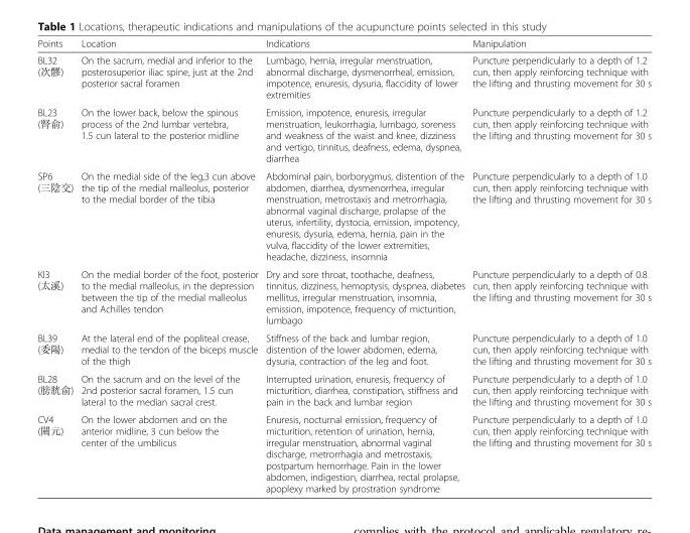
<table><thead><tr><td>Points</td><td>Location</td><td>Indications</td><td>Manipulation</td></tr></thead><tbody><tr><td>BL32 (次髎)</td><td>On the sacrum, medial and inferior to the posterosuperior iliac spine, just at the 2nd posterior sacral foramen</td><td>Lumbago, hernia, irregular menstruation, abnormal discharge, dysmenorrheal, emission, impotence, enuresis, dysuria, flaccidity of lower extremities</td><td>Puncture perpendicularly to a depth of 1.2 cun, then apply reinforcing technique with the lifting and thrusting movement for 30 s</td></tr><tr><td>BL23 (腎俞)</td><td>On the lower back, below the spinous process of the 2nd lumbar vertebra, 1.5 cun lateral to the posterior midline</td><td>Emission, impotence, enuresis, irregular menstruation, leukorrhagia, lumbago, soreness and weakness of the waist and knee, dizziness and vertigo, tinnitus, deafness, edema, dyspnea, diarrhea</td><td>Puncture perpendicularly to a depth of 1.2 cun, then apply reinforcing technique with the lifting and thrusting movement for 30 s</td></tr><tr><td>SP6 (三陰交)</td><td>On the medial side of the leg,3 cun above the tip of the medial malleolus, posterior to the medial border of the tibia</td><td>Abdominal pain, borborygmus, distention of the abdomen, diarrhea, dysmenorrhea, irregular menstruation, metrostaxis and metrorrhagia, abnormal vaginal discharge, prolapse of the uterus, infertility, dystocia, emission, impotency, enuresis, dysuria, edema, hernia, pain in the vulva, flaccidity of the lower extremities, headache, dizziness, insomnia</td><td>Puncture perpendicularly to a depth of 1.0 cun, then apply reinforcing technique with the lifting and thrusting movement for 30 s</td></tr><tr><td>KI3 (太溪)</td><td>On the medial border of the foot, posterior to the medial malleolus, in the depression between the tip of the medial malleolus and Achilles tendon</td><td>Dry and sore throat, toothache, deafness, tinnitus, dizziness, hemoptysis, dyspnea, diabetes mellitus, irregular menstruation, insomnia, emission, impotence, frequency of micturition, lumbago</td><td>Puncture perpendicularly to a depth of 0.8 cun, then apply reinforcing technique with the lifting and thrusting movement for 30 s</td></tr><tr><td>BL39 (委陽)</td><td>At the lateral end of the popliteal crease, medial to the tendon of the biceps muscle of the thigh</td><td>Stiffness of the back and lumbar region, distention of the lower abdomen, edema, dysuria, contraction of the leg and foot.</td><td>Puncture perpendicularly to a depth of 1.0 cun, then apply reinforcing technique with the lifting and thrusting movement for 30 s</td></tr><tr><td>BL28 (膀胱俞)</td><td>On the sacrum and on the level of the 2nd posterior sacral foramen, 1.5 cun lateral to the median sacral crest.</td><td>Interrupted urination, enuresis, frequency of micturition, diarrhea, constipation, stiffness and pain in the back and lumbar region</td><td>Puncture perpendicularly to a depth of 1.0 cun, then apply reinforcing technique with the lifting and thrusting movement for 30 s</td></tr><tr><td>CV4 (關元)</td><td>On the lower abdomen and on the anterior midline, 3 cun below the center of the umbilicus</td><td>Enuresis, nocturnal emission, frequency of micturition, retention of urination, hernia, irregular menstruation, abnormal vaginal discharge, metrorrhagia and metrostaxis, postpartum hemorrhage. Pain in the lower abdomen, indigestion, diarrhea, rectal prolapse, apoplexy marked by prostration syndrome</td><td>Puncture perpendicularly to a depth of 1.0 cun, then apply reinforcing technique with the lifting and thrusting movement for 30 s</td></tr></tbody></table>